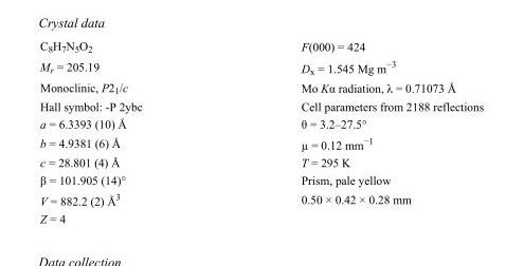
<table><tbody><tr><td>C<sub>8</sub>H<sub>7</sub>N<sub>5</sub>O<sub>2</sub></td><td>F(000) = 424</td></tr><tr><td>M<sub>r</sub> = 205.19</td><td>D<sub>x</sub> = 1.545 Mg m<sup>−3</sup></td></tr><tr><td>Monoclinic, P2<sub>1</sub>/c</td><td>Mo Kα radiation, λ = 0.71073 Å</td></tr><tr><td>Hall symbol: -P 2ybc</td><td>Cell parameters from 2188 reflections</td></tr><tr><td>a = 6.3393 (10) Å</td><td>θ = 3.2–27.5°</td></tr><tr><td>b = 4.9381 (6) Å</td><td>µ = 0.12 mm<sup>−1</sup></td></tr><tr><td>c = 28.801 (4) Å</td><td>T = 295 K</td></tr><tr><td>β = 101.905 (14)°</td><td>Prism, pale yellow</td></tr><tr><td>V = 882.2 (2) Å<sup>3</sup></td><td>0.50 × 0.42 × 0.28 mm</td></tr><tr><td>Z = 4</td><td></td></tr></tbody></table>